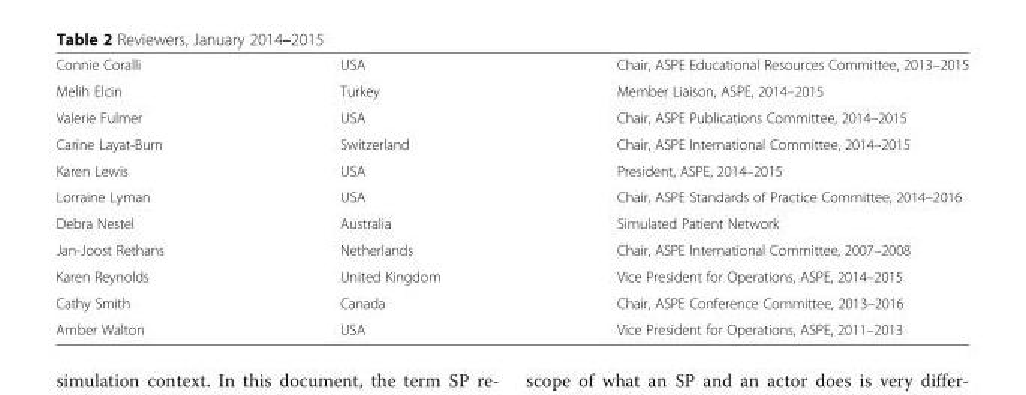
<table><tbody><tr><td>Connie Coralli</td><td>USA</td><td>Chair, ASPE Educational Resources Committee, 2013–2015</td></tr><tr><td>Melih Elcin</td><td>Turkey</td><td>Member Liaison, ASPE, 2014–2015</td></tr><tr><td>Valerie Fulmer</td><td>USA</td><td>Chair, ASPE Publications Committee, 2014–2015</td></tr><tr><td>Carine Layat-Burn</td><td>Switzerland</td><td>Chair, ASPE International Committee, 2014–2015</td></tr><tr><td>Karen Lewis</td><td>USA</td><td>President, ASPE, 2014–2015</td></tr><tr><td>Lorraine Lyman</td><td>USA</td><td>Chair, ASPE Standards of Practice Committee, 2014–2016</td></tr><tr><td>Debra Nestel</td><td>Australia</td><td>Simulated Patient Network</td></tr><tr><td>Jan-Joost Rethans</td><td>Netherlands</td><td>Chair, ASPE International Committee, 2007–2008</td></tr><tr><td>Karen Reynolds</td><td>United Kingdom</td><td>Vice President for Operations, ASPE, 2014–2015</td></tr><tr><td>Cathy Smith</td><td>Canada</td><td>Chair, ASPE Conference Committee, 2013–2016</td></tr><tr><td>Amber Walton</td><td>USA</td><td>Vice President for Operations, ASPE, 2011–2013</td></tr></tbody></table>